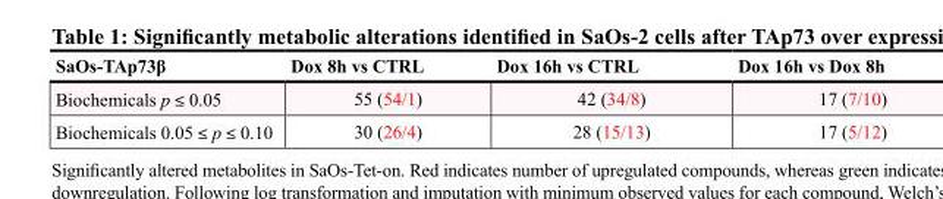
<table><thead><tr><td>SaOs-TAp73β</td><td>Dox 8h vs CTRL</td><td>Dox 16h vs CTRL</td><td>Dox 16h vs Dox 8h</td></tr></thead><tbody><tr><td>Biochemicals p ≤ 0.05</td><td>55 (54/1)</td><td>42 (34/8)</td><td>17 (7/10)</td></tr><tr><td>Biochemicals 0.05 ≤ p ≤ 0.10</td><td>30 (26/4)</td><td>28 (15/13)</td><td>17 (5/12)</td></tr></tbody></table>